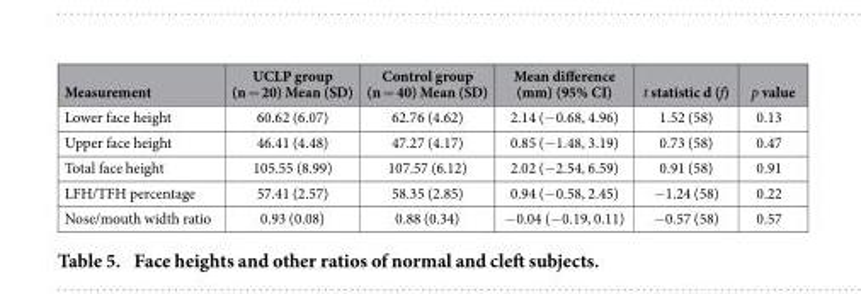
<table><thead><tr><td>Measurement</td><td>UCLP group (n = 20) Mean (SD)</td><td>Control group (n = 40) Mean (SD)</td><td>Mean difference (mm) (95% CI)</td><td>t statistic d (f)</td><td>p value</td></tr></thead><tbody><tr><td>Lower face height</td><td>60.62 (6.07)</td><td>62.76 (4.62)</td><td>2.14 (− 0.68, 4.96)</td><td>1.52 (58)</td><td>0.13</td></tr><tr><td>Upper face height</td><td>46.41 (4.48)</td><td>47.27 (4.17)</td><td>0.85 (− 1.48, 3.19)</td><td>0.73 (58)</td><td>0.47</td></tr><tr><td>Total face height</td><td>105.55 (8.99)</td><td>107.57 (6.12)</td><td>2.02 (− 2.54, 6.59)</td><td>0.91 (58)</td><td>0.91</td></tr><tr><td>LFH/TFH percentage</td><td>57.41 (2.57)</td><td>58.35 (2.85)</td><td>0.94 (− 0.58, 2.45)</td><td>− 1.24 (58)</td><td>0.22</td></tr><tr><td>Nose/mouth width ratio</td><td>0.93 (0.08)</td><td>0.88 (0.34)</td><td>− 0.04 (− 0.19, 0.11)</td><td>− 0.57 (58)</td><td>0.57</td></tr></tbody></table>